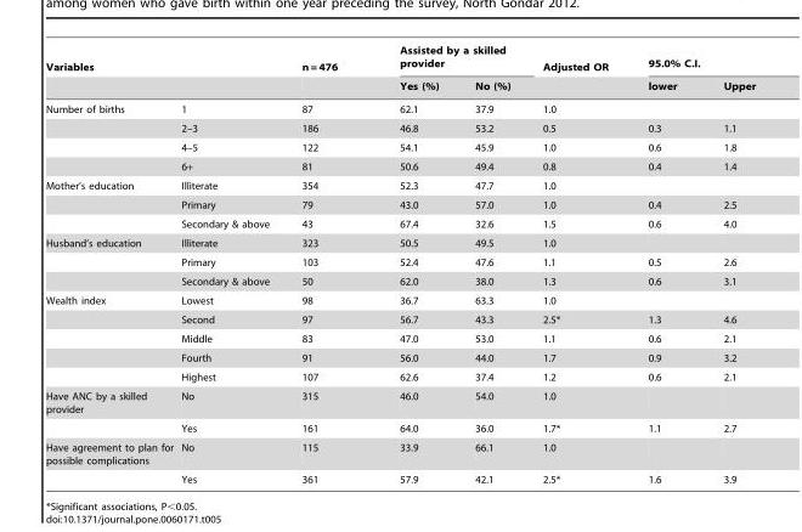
<table><thead><tr><td colspan="2">Variables</td><td rowspan="2">n = 476</td><td colspan="2">Assisted by a skilled provider</td><td rowspan="2">Adjusted OR</td><td colspan="2">95.0% C.I.</td></tr><tr><td></td><td></td><td>Yes (%)</td><td>No (%)</td><td>lower</td><td>Upper</td></tr></thead><tbody><tr><td rowspan="4">Number of births</td><td>1</td><td>87</td><td>62.1</td><td>37.9</td><td>1.0</td><td></td><td></td></tr><tr><td>2–3</td><td>186</td><td>46.8</td><td>53.2</td><td>0.5</td><td>0.3</td><td>1.1</td></tr><tr><td>4–5</td><td>122</td><td>54.1</td><td>45.9</td><td>1.0</td><td>0.6</td><td>1.8</td></tr><tr><td>6+</td><td>81</td><td>50.6</td><td>49.4</td><td>0.8</td><td>0.4</td><td>1.4</td></tr><tr><td rowspan="3">Mother’s education</td><td>Illiterate</td><td>354</td><td>52.3</td><td>47.7</td><td>1.0</td><td></td><td></td></tr><tr><td>Primary</td><td>79</td><td>43.0</td><td>57.0</td><td>1.0</td><td>0.4</td><td>2.5</td></tr><tr><td>Secondary &amp; above</td><td>43</td><td>67.4</td><td>32.6</td><td>1.5</td><td>0.6</td><td>4.0</td></tr><tr><td rowspan="3">Husband’s education</td><td>Illiterate</td><td>323</td><td>50.5</td><td>49.5</td><td>1.0</td><td></td><td></td></tr><tr><td>Primary</td><td>103</td><td>52.4</td><td>47.6</td><td>1.1</td><td>0.5</td><td>2.6</td></tr><tr><td>Secondary &amp; above</td><td>50</td><td>62.0</td><td>38.0</td><td>1.3</td><td>0.6</td><td>3.1</td></tr><tr><td rowspan="5">Wealth index</td><td>Lowest</td><td>98</td><td>36.7</td><td>63.3</td><td>1.0</td><td></td><td></td></tr><tr><td>Second</td><td>97</td><td>56.7</td><td>43.3</td><td>2.5*</td><td>1.3</td><td>4.6</td></tr><tr><td>Middle</td><td>83</td><td>47.0</td><td>53.0</td><td>1.1</td><td>0.6</td><td>2.1</td></tr><tr><td>Fourth</td><td>91</td><td>56.0</td><td>44.0</td><td>1.7</td><td>0.9</td><td>3.2</td></tr><tr><td>Highest</td><td>107</td><td>62.6</td><td>37.4</td><td>1.2</td><td>0.6</td><td>2.1</td></tr><tr><td rowspan="2">Have ANC by a skilled provider</td><td>No</td><td>315</td><td>46.0</td><td>54.0</td><td>1.0</td><td></td><td></td></tr><tr><td>Yes</td><td>161</td><td>64.0</td><td>36.0</td><td>1.7*</td><td>1.1</td><td>2.7</td></tr><tr><td rowspan="2">Have agreement to plan for possible complications</td><td>No</td><td>115</td><td>33.9</td><td>66.1</td><td>1.0</td><td></td><td></td></tr><tr><td>Yes</td><td>361</td><td>57.9</td><td>42.1</td><td>2.5*</td><td>1.6</td><td>3.9</td></tr></tbody></table>